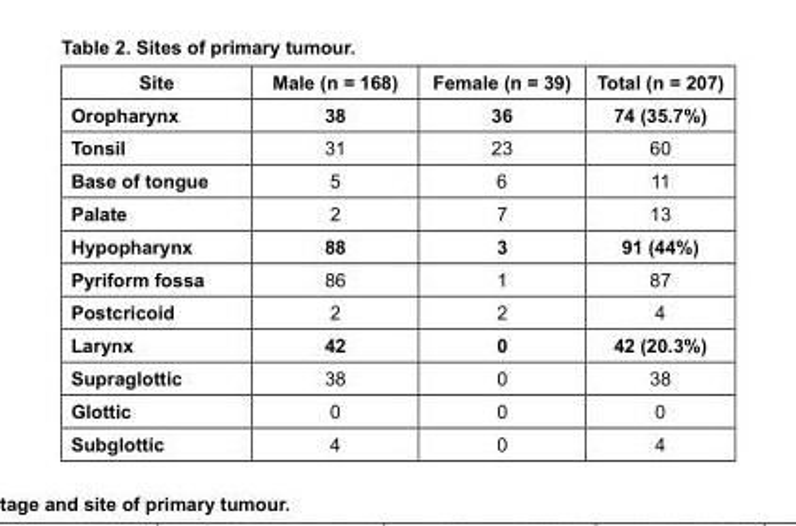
<table><thead><tr><td>Site</td><td>Male (n = 168)</td><td>Female (n = 39)</td><td>Total (n = 207)</td></tr></thead><tbody><tr><td>Oropharynx</td><td>38</td><td>36</td><td>74 (35.7%)</td></tr><tr><td>Tonsil</td><td>31</td><td>23</td><td>60</td></tr><tr><td>Base of tongue</td><td>5</td><td>6</td><td>11</td></tr><tr><td>Palate</td><td>2</td><td>7</td><td>13</td></tr><tr><td>Hypopharynx</td><td>88</td><td>3</td><td>91 (44%)</td></tr><tr><td>Pyriform fossa</td><td>86</td><td>1</td><td>87</td></tr><tr><td>Postcricoid</td><td>2</td><td>2</td><td>4</td></tr><tr><td>Larynx</td><td>42</td><td>0</td><td>42 (20.3%)</td></tr><tr><td>Supraglottic</td><td>38</td><td>0</td><td>38</td></tr><tr><td>Glottic</td><td>0</td><td>0</td><td>0</td></tr><tr><td>Subglottic</td><td>4</td><td>0</td><td>4</td></tr></tbody></table>